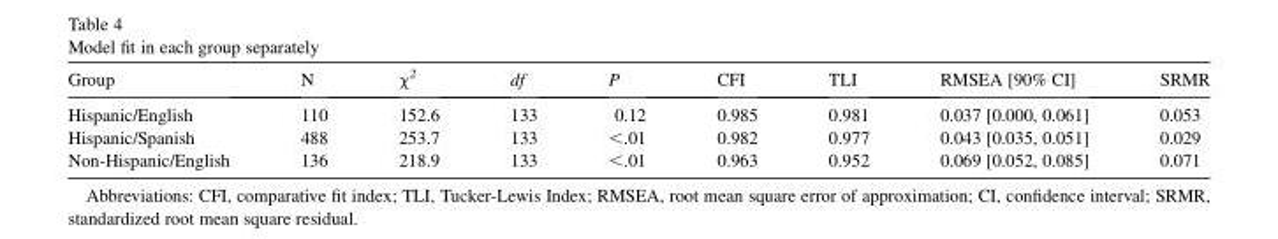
<table><thead><tr><td>Group</td><td>N</td><td>χ<sup>2</sup></td><td>df</td><td>P</td><td>CFI</td><td>TLI</td><td>RMSEA [90% CI]</td><td>SRMR</td></tr></thead><tbody><tr><td>Hispanic/English</td><td>110</td><td>152.6</td><td>133</td><td>0.12</td><td>0.985</td><td>0.981</td><td>0.037 [0.000, 0.061]</td><td>0.053</td></tr><tr><td>Hispanic/Spanish</td><td>488</td><td>253.7</td><td>133</td><td>&lt;.01</td><td>0.982</td><td>0.977</td><td>0.043 [0.035, 0.051]</td><td>0.029</td></tr><tr><td>Non-Hispanic/English</td><td>136</td><td>218.9</td><td>133</td><td>&lt;.01</td><td>0.963</td><td>0.952</td><td>0.069 [0.052, 0.085]</td><td>0.071</td></tr></tbody></table>